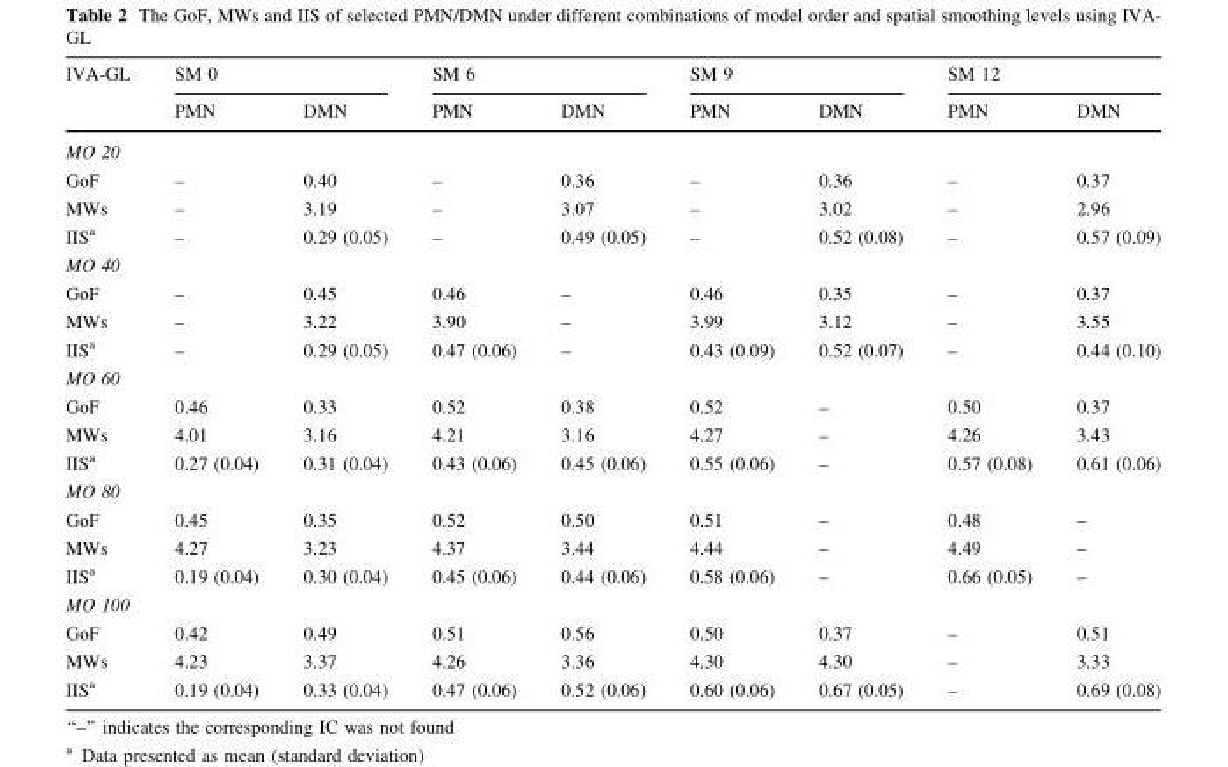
<table><thead><tr><td rowspan="2">IVA-GL</td><td colspan="2">SM 0</td><td colspan="2">SM 6</td><td colspan="2">SM 9</td><td colspan="2">SM 12</td></tr><tr><td>PMN</td><td>DMN</td><td>PMN</td><td>DMN</td><td>PMN</td><td>DMN</td><td>PMN</td><td>DMN</td></tr></thead><tbody><tr><td colspan="9">MO 20</td></tr><tr><td>GoF</td><td>–</td><td>0.40</td><td>–</td><td>0.36</td><td>–</td><td>0.36</td><td>–</td><td>0.37</td></tr><tr><td>MWs</td><td>–</td><td>3.19</td><td>–</td><td>3.07</td><td>–</td><td>3.02</td><td>–</td><td>2.96</td></tr><tr><td>IIS<sup>a</sup></td><td>–</td><td>0.29 (0.05)</td><td>–</td><td>0.49 (0.05)</td><td>–</td><td>0.52 (0.08)</td><td>–</td><td>0.57 (0.09)</td></tr><tr><td colspan="9">MO 40</td></tr><tr><td>GoF</td><td>–</td><td>0.45</td><td>0.46</td><td>–</td><td>0.46</td><td>0.35</td><td>–</td><td>0.37</td></tr><tr><td>MWs</td><td>–</td><td>3.22</td><td>3.90</td><td>–</td><td>3.99</td><td>3.12</td><td>–</td><td>3.55</td></tr><tr><td>IIS<sup>a</sup></td><td>–</td><td>0.29 (0.05)</td><td>0.47 (0.06)</td><td>–</td><td>0.43 (0.09)</td><td>0.52 (0.07)</td><td>–</td><td>0.44 (0.10)</td></tr><tr><td colspan="9">MO 60</td></tr><tr><td>GoF</td><td>0.46</td><td>0.33</td><td>0.52</td><td>0.38</td><td>0.52</td><td>–</td><td>0.50</td><td>0.37</td></tr><tr><td>MWs</td><td>4.01</td><td>3.16</td><td>4.21</td><td>3.16</td><td>4.27</td><td>–</td><td>4.26</td><td>3.43</td></tr><tr><td>IIS<sup>a</sup></td><td>0.27 (0.04)</td><td>0.31 (0.04)</td><td>0.43 (0.06)</td><td>0.45 (0.06)</td><td>0.55 (0.06)</td><td>–</td><td>0.57 (0.08)</td><td>0.61 (0.06)</td></tr><tr><td colspan="9">MO 80</td></tr><tr><td>GoF</td><td>0.45</td><td>0.35</td><td>0.52</td><td>0.50</td><td>0.51</td><td>–</td><td>0.48</td><td>–</td></tr><tr><td>MWs</td><td>4.27</td><td>3.23</td><td>4.37</td><td>3.44</td><td>4.44</td><td>–</td><td>4.49</td><td>–</td></tr><tr><td>IIS<sup>a</sup></td><td>0.19 (0.04)</td><td>0.30 (0.04)</td><td>0.45 (0.06)</td><td>0.44 (0.06)</td><td>0.58 (0.06)</td><td>–</td><td>0.66 (0.05)</td><td>–</td></tr><tr><td colspan="9">MO 100</td></tr><tr><td>GoF</td><td>0.42</td><td>0.49</td><td>0.51</td><td>0.56</td><td>0.50</td><td>0.37</td><td>–</td><td>0.51</td></tr><tr><td>MWs</td><td>4.23</td><td>3.37</td><td>4.26</td><td>3.36</td><td>4.30</td><td>4.30</td><td>–</td><td>3.33</td></tr><tr><td>IIS<sup>a</sup></td><td>0.19 (0.04)</td><td>0.33 (0.04)</td><td>0.47 (0.06)</td><td>0.52 (0.06)</td><td>0.60 (0.06)</td><td>0.67 (0.05)</td><td>–</td><td>0.69 (0.08)</td></tr></tbody></table>